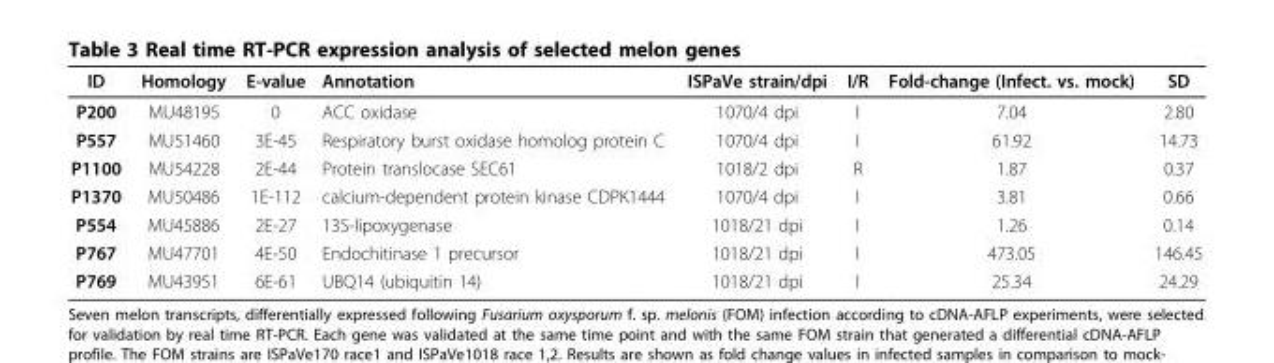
<table><thead><tr><td>ID</td><td>Homology</td><td>E-value</td><td>Annotation</td><td>ISPaVe strain/dpi</td><td>I/R</td><td>Fold-change (Infect. vs. mock)</td><td>SD</td></tr></thead><tbody><tr><td>P200</td><td>MU48195</td><td>0</td><td>ACC oxidase</td><td>1070/4 dpi</td><td>I</td><td>7.04</td><td>2.80</td></tr><tr><td>P557</td><td>MU51460</td><td>3E-45</td><td>Respiratory burst oxidase homolog protein C</td><td>1070/4 dpi</td><td>I</td><td>61.92</td><td>14.73</td></tr><tr><td>P1100</td><td>MU54228</td><td>2E-44</td><td>Protein translocase SEC61</td><td>1018/2 dpi</td><td>R</td><td>1.87</td><td>0.37</td></tr><tr><td>P1370</td><td>MU50486</td><td>1E-112</td><td>calcium-dependent protein kinase CDPK1444</td><td>1070/4 dpi</td><td>I</td><td>3.81</td><td>0.66</td></tr><tr><td>P554</td><td>MU45886</td><td>2E-27</td><td>13S-lipoxygenase</td><td>1018/21 dpi</td><td>I</td><td>1.26</td><td>0.14</td></tr><tr><td>P767</td><td>MU47701</td><td>4E-50</td><td>Endochitinase 1 precursor</td><td>1018/21 dpi</td><td>I</td><td>473.05</td><td>146.45</td></tr><tr><td>P769</td><td>MU43951</td><td>6E-61</td><td>UBQ14 (ubiquitin 14)</td><td>1018/21 dpi</td><td>I</td><td>25.34</td><td>24.29</td></tr></tbody></table>